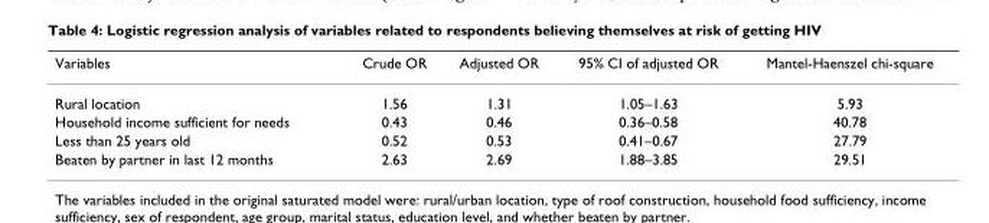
<table><thead><tr><td>Variables</td><td>Crude OR</td><td>Adjusted OR</td><td>95% CI of adjusted OR</td><td>Mantel-Haenszel chi-square</td></tr></thead><tbody><tr><td>Rural location</td><td>1.56</td><td>1.31</td><td>1.05–1.63</td><td>5.93</td></tr><tr><td>Household income sufficient for needs</td><td>0.43</td><td>0.46</td><td>0.36–0.58</td><td>40.78</td></tr><tr><td>Less than 25 years old</td><td>0.52</td><td>0.53</td><td>0.41–0.67</td><td>27.79</td></tr><tr><td>Beaten by partner in last 12 months</td><td>2.63</td><td>2.69</td><td>1.88–3.85</td><td>29.51</td></tr></tbody></table>